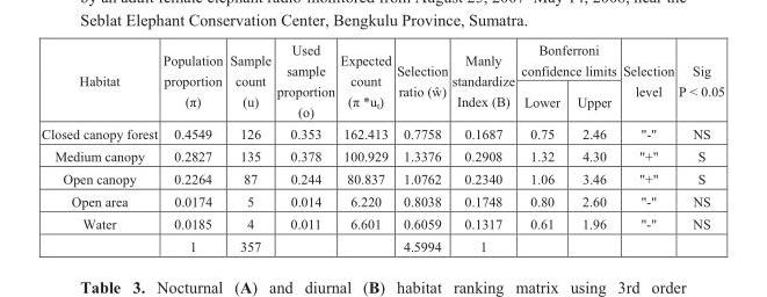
<table><tbody><tr><td rowspan="2">Habitat</td><td rowspan="2">Population proportion (π)</td><td rowspan="2">Sample count (u)</td><td rowspan="2">Used sample proportion (o)</td><td rowspan="2">Expected count (π *u<sub>t</sub>)</td><td rowspan="2">Selection ratio (ŵ)</td><td rowspan="2">Manly standardize Index (B)</td><td colspan="2">Bonferroni confidence limits</td><td rowspan="2">Selection level</td><td rowspan="2">Sig P &lt; 0.05</td></tr><tr><td>Lower</td><td>Upper</td></tr><tr><td>Closed canopy forest</td><td>0.4549</td><td>126</td><td>0.353</td><td>162.413</td><td>0.7758</td><td>0.1687</td><td>0.75</td><td>2.46</td><td>&quot;-&quot;</td><td>NS</td></tr><tr><td>Medium canopy</td><td>0.2827</td><td>135</td><td>0.378</td><td>100.929</td><td>1.3376</td><td>0.2908</td><td>1.32</td><td>4.30</td><td>&quot;+&quot;</td><td>S</td></tr><tr><td>Open canopy</td><td>0.2264</td><td>87</td><td>0.244</td><td>80.837</td><td>1.0762</td><td>0.2340</td><td>1.06</td><td>3.46</td><td>&quot;+&quot;</td><td>S</td></tr><tr><td>Open area</td><td>0.0174</td><td>5</td><td>0.014</td><td>6.220</td><td>0.8038</td><td>0.1748</td><td>0.80</td><td>2.60</td><td>&quot;-&quot;</td><td>NS</td></tr><tr><td rowspan="2">Water</td><td>0.0185</td><td>4</td><td>0.011</td><td>6.601</td><td>0.6059</td><td>0.1317</td><td>0.61</td><td>1.96</td><td>&quot;-&quot;</td><td>NS</td></tr><tr><td>1</td><td>357</td><td></td><td></td><td>4.5994</td><td>1</td><td></td><td></td><td></td><td></td></tr></tbody></table>